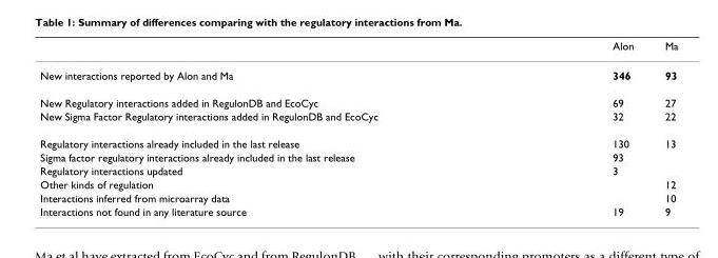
<table><thead><tr><td></td><td>Alon</td><td>Ma</td></tr></thead><tbody><tr><td>New interactions reported by Alon and Ma</td><td>346</td><td>93</td></tr><tr><td>New Regulatory interactions added in RegulonDB and EcoCyc</td><td>69</td><td>27</td></tr><tr><td>New Sigma Factor Regulatory interactions added in RegulonDB and EcoCyc</td><td>32</td><td>22</td></tr><tr><td>Regulatory interactions already included in the last release</td><td>130</td><td>13</td></tr><tr><td>Sigma factor regulatory interactions already included in the last release</td><td>93</td><td></td></tr><tr><td>Regulatory interactions updated</td><td>3</td><td></td></tr><tr><td>Other kinds of regulation</td><td></td><td>12</td></tr><tr><td>Interactions inferred from microarray data</td><td></td><td>10</td></tr><tr><td>Interactions not found in any literature source</td><td>19</td><td>9</td></tr></tbody></table>